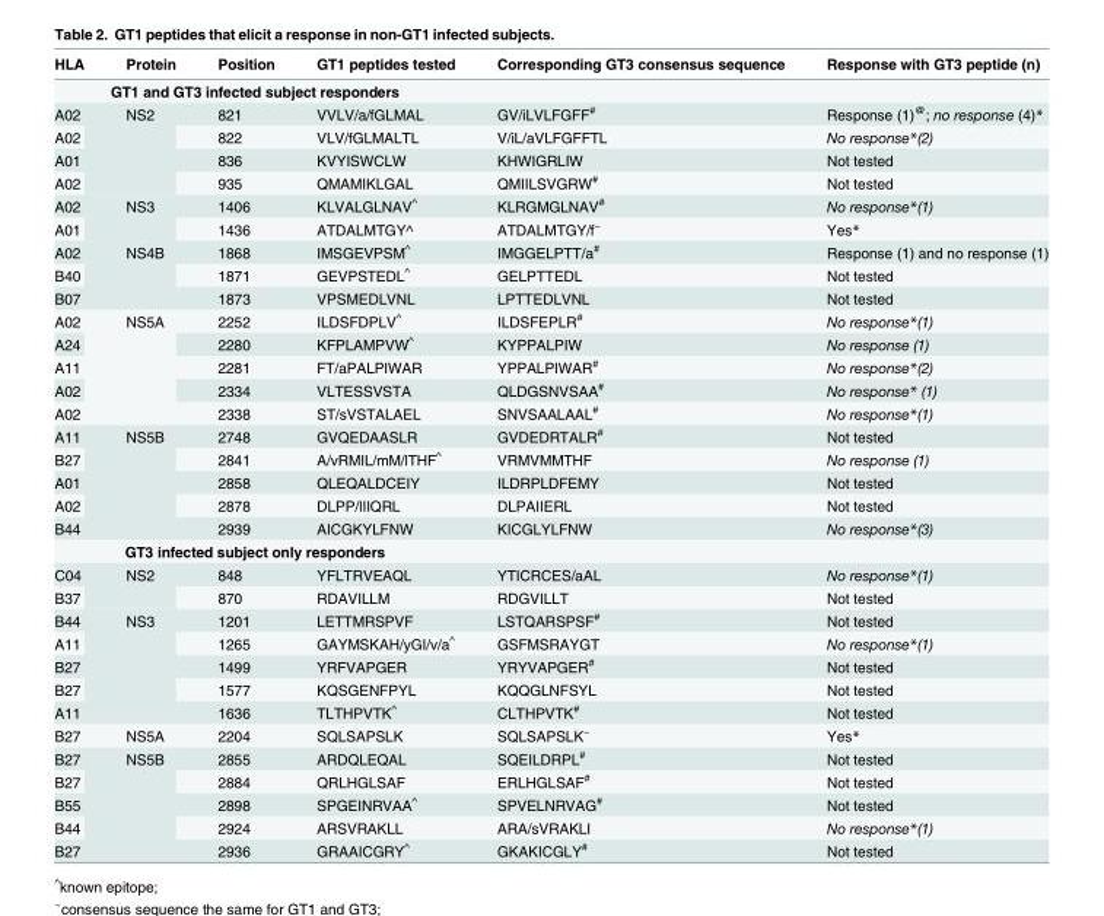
<table><thead><tr><td>HLA</td><td>Protein</td><td>Position</td><td>GT1 peptides tested</td><td>Corresponding GT3 consensus sequence</td><td>Response with GT3 peptide (n)</td></tr></thead><tbody><tr><td colspan="6">GT1 and GT3 infected subject responders</td></tr><tr><td>A02</td><td rowspan="4">NS2</td><td>821</td><td>VVLV/a/fGLMAL</td><td>GV/iLVLFGFF<sup>#</sup></td><td>Response (1)<sup>@</sup>; no response (4)*</td></tr><tr><td>A02</td><td>822</td><td>VLV/fGLMALTL</td><td>V/iL/aVLFGFFTL</td><td>No response*(2)</td></tr><tr><td>A01</td><td>836</td><td>KVYISWCLW</td><td>KHWIGRLIW</td><td>Not tested</td></tr><tr><td>A02</td><td>935</td><td>QMAMIKLGAL</td><td>QMIILSVGRW<sup>#</sup></td><td>Not tested</td></tr><tr><td>A02</td><td rowspan="2">NS3</td><td>1406</td><td>KLVALGLNAV<sup>^</sup></td><td>KLRGMGLNAV<sup>#</sup></td><td>No response*(1)</td></tr><tr><td>A01</td><td>1436</td><td>ATDALMTGY^</td><td>ATDALMTGY/f<sup>~</sup></td><td>Yes*</td></tr><tr><td>A02</td><td rowspan="3">NS4B</td><td>1868</td><td>IMSGEVPSM<sup>^</sup></td><td>IMGGELPTT/a<sup>#</sup></td><td>Response (1) and no response (1)</td></tr><tr><td>B40</td><td>1871</td><td>GEVPSTEDL<sup>^</sup></td><td>GELPTTEDL</td><td>Not tested</td></tr><tr><td>B07</td><td>1873</td><td>VPSMEDLVNL</td><td>LPTTEDLVNL</td><td>Not tested</td></tr><tr><td>A02</td><td rowspan="5">NS5A</td><td>2252</td><td>ILDSFDPLV<sup>^</sup></td><td>ILDSFEPLR<sup>#</sup></td><td>No response*(1)</td></tr><tr><td>A24</td><td>2280</td><td>KFPLAMPVW<sup>^</sup></td><td>KYPPALPIW</td><td>No response (1)</td></tr><tr><td>A11</td><td>2281</td><td>FT/aPALPIWAR</td><td>YPPALPIWAR<sup>#</sup></td><td>No response*(2)</td></tr><tr><td>A02</td><td>2334</td><td>VLTESSVSTA</td><td>QLDGSNVSAA<sup>#</sup></td><td>No response* (1)</td></tr><tr><td>A02</td><td>2338</td><td>ST/sVSTALAEL</td><td>SNVSAALAAL<sup>#</sup></td><td>No response*(1)</td></tr><tr><td>A11</td><td rowspan="5">NS5B</td><td>2748</td><td>GVQEDAASLR</td><td>GVDEDRTALR<sup>#</sup></td><td>Not tested</td></tr><tr><td>B27</td><td>2841</td><td>A/vRMIL/mM/lTHF<sup>^</sup></td><td>VRMVMMTHF</td><td>No response (1)</td></tr><tr><td>A01</td><td>2858</td><td>QLEQALDCEIY</td><td>ILDRPLDFEMY</td><td>Not tested</td></tr><tr><td>A02</td><td>2878</td><td>DLPP/lIIQRL</td><td>DLPAIIERL</td><td>Not tested</td></tr><tr><td>B44</td><td>2939</td><td>AICGKYLFNW</td><td>KICGLYLFNW</td><td>No response*(3)</td></tr><tr><td colspan="6">GT3 infected subject only responders</td></tr><tr><td>C04</td><td rowspan="2">NS2</td><td>848</td><td>YFLTRVEAQL</td><td>YTICRCES/aAL</td><td>No response*(1)</td></tr><tr><td>B37</td><td>870</td><td>RDAVILLM</td><td>RDGVILLT</td><td>Not tested</td></tr><tr><td>B44</td><td rowspan="5">NS3</td><td>1201</td><td>LETTMRSPVF</td><td>LSTQARSPSF<sup>#</sup></td><td>Not tested</td></tr><tr><td>A11</td><td>1265</td><td>GAYMSKAH/yGI/v/a<sup>^</sup></td><td>GSFMSRAYGT</td><td>No response*(1)</td></tr><tr><td>B27</td><td>1499</td><td>YRFVAPGER</td><td>YRYVAPGER<sup>#</sup></td><td>Not tested</td></tr><tr><td>B27</td><td>1577</td><td>KQSGENFPYL</td><td>KQQGLNFSYL</td><td>Not tested</td></tr><tr><td>A11</td><td>1636</td><td>TLTHPVTK<sup>^</sup></td><td>CLTHPVTK<sup>#</sup></td><td>Not tested</td></tr><tr><td>B27</td><td>NS5A</td><td>2204</td><td>SQLSAPSLK</td><td>SQLSAPSLK<sup>~</sup></td><td>Yes*</td></tr><tr><td>B27</td><td rowspan="5">NS5B</td><td>2855</td><td>ARDQLEQAL</td><td>SQEILDRPL<sup>#</sup></td><td>Not tested</td></tr><tr><td>B27</td><td>2884</td><td>QRLHGLSAF</td><td>ERLHGLSAF<sup>#</sup></td><td>Not tested</td></tr><tr><td>B55</td><td>2898</td><td>SPGEINRVAA<sup>^</sup></td><td>SPVELNRVAG<sup>#</sup></td><td>Not tested</td></tr><tr><td>B44</td><td>2924</td><td>ARSVRAKLL</td><td>ARA/sVRAKLI</td><td>No response*(1)</td></tr><tr><td>B27</td><td>2936</td><td>GRAAICGRY<sup>^</sup></td><td>GKAKICGLY<sup>#</sup></td><td>Not tested</td></tr></tbody></table>